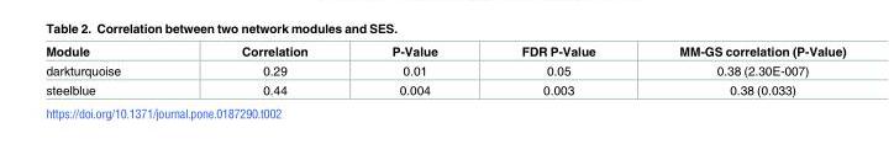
<table><thead><tr><td>Module</td><td>Correlation</td><td>P-Value</td><td>FDR P-Value</td><td>MM-GS correlation (P-Value)</td></tr></thead><tbody><tr><td>darkturquoise</td><td>0.29</td><td>0.01</td><td>0.05</td><td>0.38 (2.30E-007)</td></tr><tr><td>steelblue</td><td>0.44</td><td>0.004</td><td>0.003</td><td>0.38 (0.033)</td></tr></tbody></table>